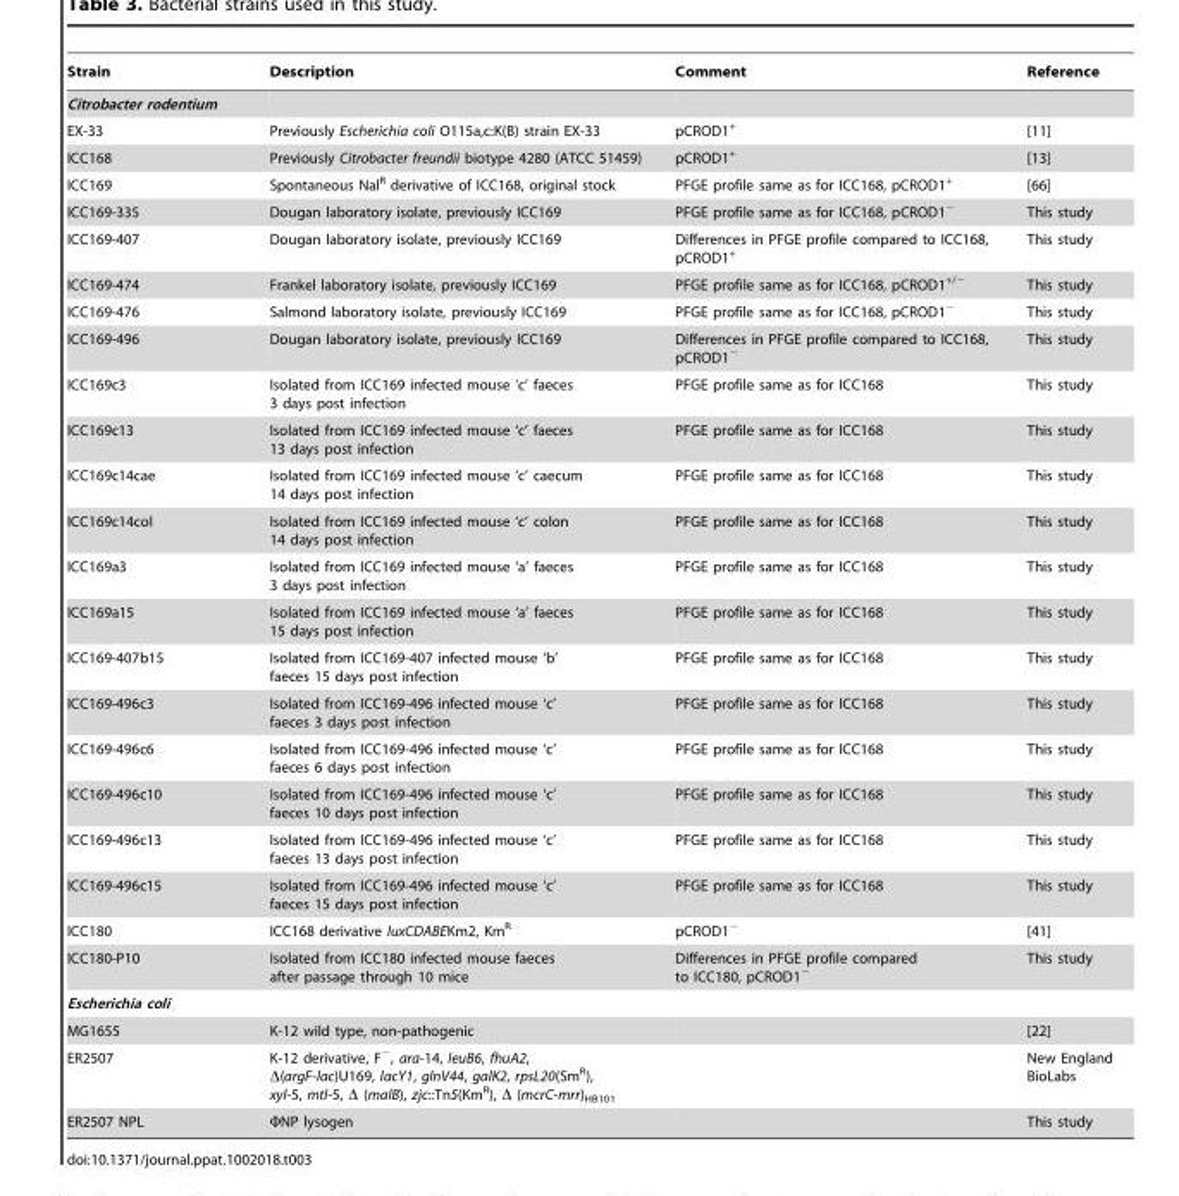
<table><thead><tr><td>Strain</td><td>Description</td><td>Comment</td><td>Reference</td></tr></thead><tbody><tr><td colspan="4">Citrobacter rodentium</td></tr><tr><td>EX-33</td><td>Previously Escherichia coli O115a,c:K(B) strain EX-33</td><td>pCROD1<sup>+</sup></td><td>[11]</td></tr><tr><td>ICC168</td><td>Previously Citrobacter freundii biotype 4280 (ATCC 51459)</td><td>pCROD1<sup>+</sup></td><td>[13]</td></tr><tr><td>ICC169</td><td>Spontaneous Nal<sup>R</sup> derivative of ICC168, original stock</td><td>PFGE profile same as for ICC168, pCROD1<sup>+</sup></td><td>[66]</td></tr><tr><td>ICC169-335</td><td>Dougan laboratory isolate, previously ICC169</td><td>PFGE profile same as for ICC168, pCROD1<sup>−</sup></td><td>This study</td></tr><tr><td>ICC169-407</td><td>Dougan laboratory isolate, previously ICC169</td><td>Differences in PFGE profile compared to ICC168, pCROD1<sup>+</sup></td><td>This study</td></tr><tr><td>ICC169-474</td><td>Frankel laboratory isolate, previously ICC169</td><td>PFGE profile same as for ICC168, pCROD1<sup>+/−</sup></td><td>This study</td></tr><tr><td>ICC169-476</td><td>Salmond laboratory isolate, previously ICC169</td><td>PFGE profile same as for ICC168, pCROD1<sup>−</sup></td><td>This study</td></tr><tr><td>ICC169-496</td><td>Dougan laboratory isolate, previously ICC169</td><td>Differences in PFGE profile compared to ICC168, pCROD1<sup>−</sup></td><td>This study</td></tr><tr><td>ICC169c3</td><td>Isolated from ICC169 infected mouse ‘c’ faeces 3 days post infection</td><td>PFGE profile same as for ICC168</td><td>This study</td></tr><tr><td>ICC169c13</td><td>Isolated from ICC169 infected mouse ‘c’ faeces 13 days post infection</td><td>PFGE profile same as for ICC168</td><td>This study</td></tr><tr><td>ICC169c14cae</td><td>Isolated from ICC169 infected mouse ‘c’ caecum 14 days post infection</td><td>PFGE profile same as for ICC168</td><td>This study</td></tr><tr><td>ICC169c14col</td><td>Isolated from ICC169 infected mouse ‘c’ colon 14 days post infection</td><td>PFGE profile same as for ICC168</td><td>This study</td></tr><tr><td>ICC169a3</td><td>Isolated from ICC169 infected mouse ‘a’ faeces 3 days post infection</td><td>PFGE profile same as for ICC168</td><td>This study</td></tr><tr><td>ICC169a15</td><td>Isolated from ICC169 infected mouse ‘a’ faeces 15 days post infection</td><td>PFGE profile same as for ICC168</td><td>This study</td></tr><tr><td>ICC169-407b15</td><td>Isolated from ICC169-407 infected mouse ‘b’ faeces 15 days post infection</td><td>PFGE profile same as for ICC168</td><td>This study</td></tr><tr><td>ICC169-496c3</td><td>Isolated from ICC169-496 infected mouse ‘c’ faeces 3 days post infection</td><td>PFGE profile same as for ICC168</td><td>This study</td></tr><tr><td>ICC169-496c6</td><td>Isolated from ICC169-496 infected mouse ‘c’ faeces 6 days post infection</td><td>PFGE profile same as for ICC168</td><td>This study</td></tr><tr><td>ICC169-496c10</td><td>Isolated from ICC169-496 infected mouse ‘c’ faeces 10 days post infection</td><td>PFGE profile same as for ICC168</td><td>This study</td></tr><tr><td>ICC169-496c13</td><td>Isolated from ICC169-496 infected mouse ‘c’ faeces 13 days post infection</td><td>PFGE profile same as for ICC168</td><td>This study</td></tr><tr><td>ICC169-496c15</td><td>Isolated from ICC169-496 infected mouse ‘c’ faeces 15 days post infection</td><td>PFGE profile same as for ICC168</td><td>This study</td></tr><tr><td>ICC180</td><td>ICC168 derivative luxCDABEKm2, Km<sup>R</sup></td><td>pCROD1<sup>−</sup></td><td>[41]</td></tr><tr><td>ICC180-P10</td><td>Isolated from ICC180 infected mouse faeces after passage through 10 mice</td><td>Differences in PFGE profile compared to ICC180, pCROD1<sup>−</sup></td><td>This study</td></tr><tr><td colspan="4">Escherichia coli</td></tr><tr><td>MG1655</td><td>K-12 wild type, non-pathogenic</td><td></td><td>[22]</td></tr><tr><td>ER2507</td><td>K-12 derivative, F<sup>−</sup>, ara-14, leuB6, fhuA2, Δ(argF-lac)U169, lacY1, glnV44, galK2, rpsL20(Sm<sup>R</sup>), xyl-5, mtl-5, Δ (malB), zjc::Tn5(Km<sup>R</sup>), Δ (mcrC-mrr)<sub>HB101</sub></td><td></td><td>New England BioLabs</td></tr><tr><td>ER2507 NPL</td><td>ΦNP lysogen</td><td></td><td>This study</td></tr></tbody></table>